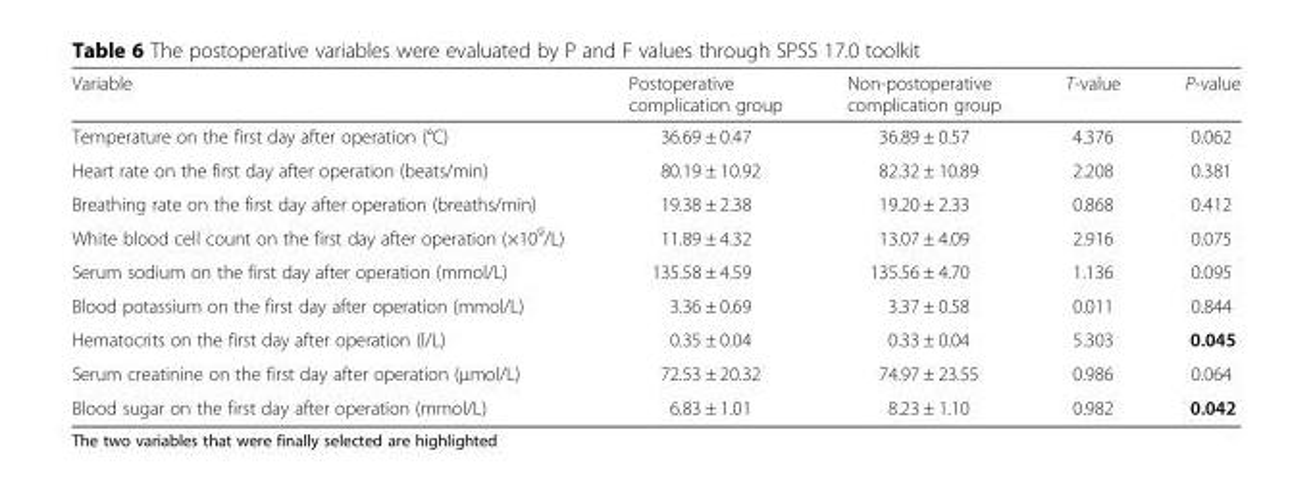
<table><thead><tr><td>Variable</td><td>Postoperative complication group</td><td>Non-postoperative complication group</td><td>T-value</td><td>P-value</td></tr></thead><tbody><tr><td>Temperature on the first day after operation (°C)</td><td>36.69 ± 0.47</td><td>36.89 ± 0.57</td><td>4.376</td><td>0.062</td></tr><tr><td>Heart rate on the first day after operation (beats/min)</td><td>80.19 ± 10.92</td><td>82.32 ± 10.89</td><td>2.208</td><td>0.381</td></tr><tr><td>Breathing rate on the first day after operation (breaths/min)</td><td>19.38 ± 2.38</td><td>19.20 ± 2.33</td><td>0.868</td><td>0.412</td></tr><tr><td>White blood cell count on the first day after operation (×10<sup>9</sup>/L)</td><td>11.89 ± 4.32</td><td>13.07 ± 4.09</td><td>2.916</td><td>0.075</td></tr><tr><td>Serum sodium on the first day after operation (mmol/L)</td><td>135.58 ± 4.59</td><td>135.56 ± 4.70</td><td>1.136</td><td>0.095</td></tr><tr><td>Blood potassium on the first day after operation (mmol/L)</td><td>3.36 ± 0.69</td><td>3.37 ± 0.58</td><td>0.011</td><td>0.844</td></tr><tr><td>Hematocrits on the first day after operation (l/L)</td><td>0.35 ± 0.04</td><td>0.33 ± 0.04</td><td>5.303</td><td>0.045</td></tr><tr><td>Serum creatinine on the first day after operation (μmol/L)</td><td>72.53 ± 20.32</td><td>74.97 ± 23.55</td><td>0.986</td><td>0.064</td></tr><tr><td>Blood sugar on the first day after operation (mmol/L)</td><td>6.83 ± 1.01</td><td>8.23 ± 1.10</td><td>0.982</td><td>0.042</td></tr></tbody></table>